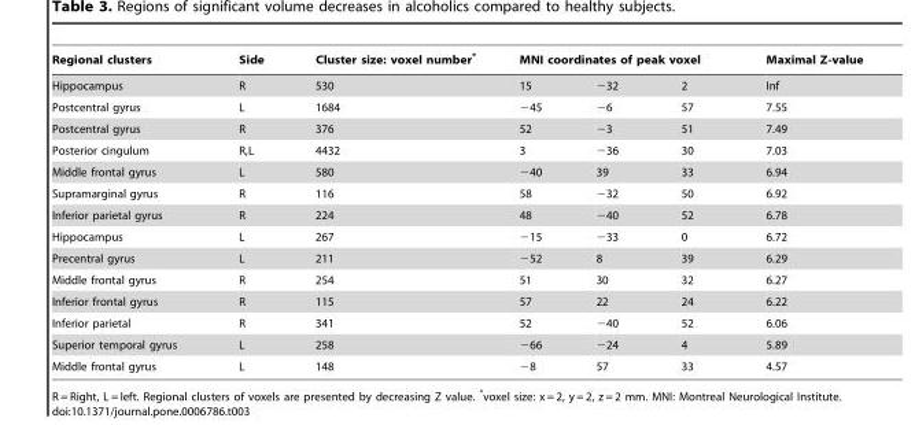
<table><thead><tr><td rowspan="2">Regional clusters Hippocampus</td><td rowspan="2">Side R</td><td rowspan="2">Cluster size: voxel number* 530</td><td colspan="3">MNI coordinates of peak voxel</td><td rowspan="2">Maximal Z-value Inf</td></tr><tr><td>15</td><td>−32</td><td>2</td></tr></thead><tbody><tr><td>Postcentral gyrus</td><td>L</td><td>1684</td><td>−45</td><td>−6</td><td>57</td><td>7.55</td></tr><tr><td>Postcentral gyrus</td><td>R</td><td>376</td><td>52</td><td>−3</td><td>51</td><td>7.49</td></tr><tr><td>Posterior cingulum</td><td>R,L</td><td>4432</td><td>3</td><td>−36</td><td>30</td><td>7.03</td></tr><tr><td>Middle frontal gyrus</td><td>L</td><td>580</td><td>−40</td><td>39</td><td>33</td><td>6.94</td></tr><tr><td>Supramarginal gyrus</td><td>R</td><td>116</td><td>58</td><td>−32</td><td>50</td><td>6.92</td></tr><tr><td>Inferior parietal gyrus</td><td>R</td><td>224</td><td>48</td><td>−40</td><td>52</td><td>6.78</td></tr><tr><td>Hippocampus</td><td>L</td><td>267</td><td>−15</td><td>−33</td><td>0</td><td>6.72</td></tr><tr><td>Precentral gyrus</td><td>L</td><td>211</td><td>−52</td><td>8</td><td>39</td><td>6.29</td></tr><tr><td>Middle frontal gyrus</td><td>R</td><td>254</td><td>51</td><td>30</td><td>32</td><td>6.27</td></tr><tr><td>Inferior frontal gyrus</td><td>R</td><td>115</td><td>57</td><td>22</td><td>24</td><td>6.22</td></tr><tr><td>Inferior parietal</td><td>R</td><td>341</td><td>52</td><td>−40</td><td>52</td><td>6.06</td></tr><tr><td>Superior temporal gyrus</td><td>L</td><td>258</td><td>−66</td><td>−24</td><td>4</td><td>5.89</td></tr><tr><td>Middle frontal gyrus</td><td>L</td><td>148</td><td>−8</td><td>57</td><td>33</td><td>4.57</td></tr></tbody></table>